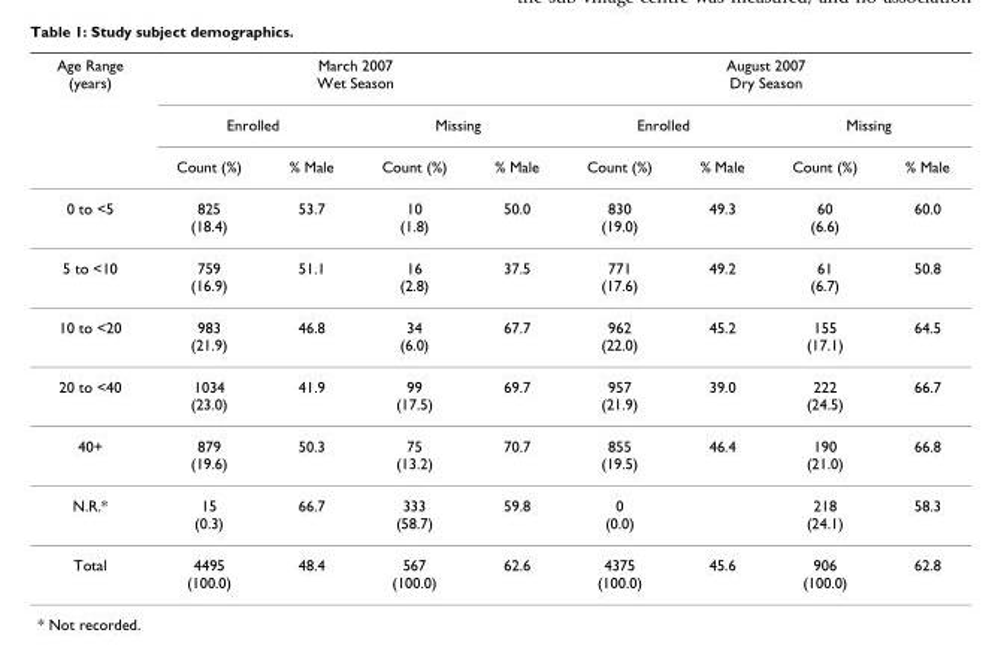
<table><thead><tr><td rowspan="3">Age Range (years)</td><td colspan="4">March 2007 Wet Season</td><td colspan="4">August 2007 Dry Season</td></tr><tr><td colspan="2">Enrolled</td><td colspan="2">Missing</td><td colspan="2">Enrolled</td><td colspan="2">Missing</td></tr><tr><td>Count (%)</td><td>% Male</td><td>Count (%)</td><td>% Male</td><td>Count (%)</td><td>% Male</td><td>Count (%)</td><td>% Male</td></tr></thead><tbody><tr><td>0 to &lt;5</td><td>825 (18.4)</td><td>53.7</td><td>10 (1.8)</td><td>50.0</td><td>830 (19.0)</td><td>49.3</td><td>60 (6.6)</td><td>60.0</td></tr><tr><td>5 to &lt;10</td><td>759 (16.9)</td><td>51.1</td><td>16 (2.8)</td><td>37.5</td><td>771 (17.6)</td><td>49.2</td><td>61 (6.7)</td><td>50.8</td></tr><tr><td>10 to &lt;20</td><td>983 (21.9)</td><td>46.8</td><td>34 (6.0)</td><td>67.7</td><td>962 (22.0)</td><td>45.2</td><td>155 (17.1)</td><td>64.5</td></tr><tr><td>20 to &lt;40</td><td>1034 (23.0)</td><td>41.9</td><td>99 (17.5)</td><td>69.7</td><td>957 (21.9)</td><td>39.0</td><td>222 (24.5)</td><td>66.7</td></tr><tr><td>40+</td><td>879 (19.6)</td><td>50.3</td><td>75 (13.2)</td><td>70.7</td><td>855 (19.5)</td><td>46.4</td><td>190 (21.0)</td><td>66.8</td></tr><tr><td>N.R.*</td><td>15 (0.3)</td><td>66.7</td><td>333 (58.7)</td><td>59.8</td><td>0 (0.0)</td><td></td><td>218 (24.1)</td><td>58.3</td></tr><tr><td>Total</td><td>4495 (100.0)</td><td>48.4</td><td>567 (100.0)</td><td>62.6</td><td>4375 (100.0)</td><td>45.6</td><td>906 (100.0)</td><td>62.8</td></tr></tbody></table>